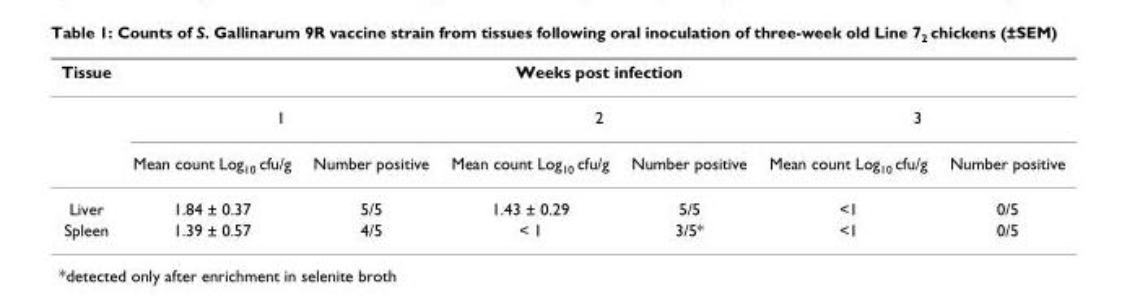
<table><thead><tr><td rowspan="3">Tissue</td><td colspan="6">Weeks post infection</td></tr><tr><td colspan="2">1</td><td colspan="2">2</td><td colspan="2">3</td></tr><tr><td>Mean count Log<sub>10</sub> cfu/g</td><td>Number positive</td><td>Mean count Log<sub>10</sub> cfu/g</td><td>Number positive</td><td>Mean count Log<sub>10</sub> cfu/g</td><td>Number positive</td></tr></thead><tbody><tr><td>Liver</td><td>1.84 ± 0.37</td><td>5/5</td><td>1.43 ± 0.29</td><td>5/5</td><td>&lt;1</td><td>0/5</td></tr><tr><td>Spleen</td><td>1.39 ± 0.57</td><td>4/5</td><td>&lt; 1</td><td>3/5*</td><td>&lt;1</td><td>0/5</td></tr></tbody></table>